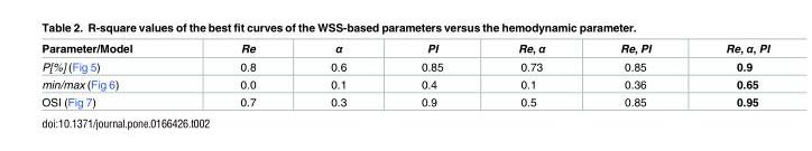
<table><thead><tr><td>Parameter/Model</td><td>Re</td><td>α</td><td>PI</td><td>Re, α</td><td>Re, PI</td><td>Re, α, PI</td></tr></thead><tbody><tr><td>P[%] (Fig 5)</td><td>0.8</td><td>0.6</td><td>0.85</td><td>0.73</td><td>0.85</td><td>0.9</td></tr><tr><td>min/max (Fig 6)</td><td>0.0</td><td>0.1</td><td>0.4</td><td>0.1</td><td>0.36</td><td>0.65</td></tr><tr><td>OSI (Fig 7)</td><td>0.7</td><td>0.3</td><td>0.9</td><td>0.5</td><td>0.85</td><td>0.95</td></tr></tbody></table>